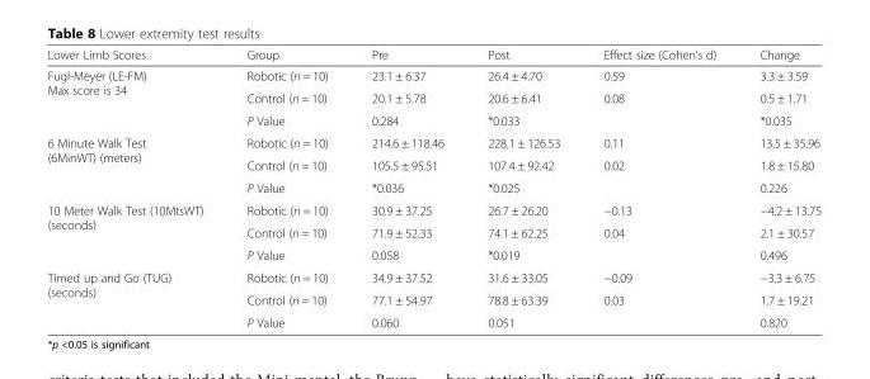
<table><thead><tr><td>Lower Limb Scores</td><td>Group</td><td>Pre</td><td>Post</td><td>Effect size (Cohen’s d)</td><td>Change</td></tr></thead><tbody><tr><td rowspan="3">Fugl-Meyer (LE-FM) Max score is 34</td><td>Robotic (n = 10)</td><td>23.1 ± 6.37</td><td>26.4 ± 4.70</td><td>0.59</td><td>3.3 ± 3.59</td></tr><tr><td>Control (n = 10)</td><td>20.1 ± 5.78</td><td>20.6 ± 6.41</td><td>0.08</td><td>0.5 ± 1.71</td></tr><tr><td>P Value</td><td>0.284</td><td>*0.033</td><td></td><td>*0.035</td></tr><tr><td rowspan="3">6 Minute Walk Test (6MinWT) (meters)</td><td>Robotic (n = 10)</td><td>214.6 ± 118.46</td><td>228.1 ± 126.53</td><td>0.11</td><td>13.5 ± 35.96</td></tr><tr><td>Control (n = 10)</td><td>105.5 ± 95.51</td><td>107.4 ± 92.42</td><td>0.02</td><td>1.8 ± 15.80</td></tr><tr><td>P Value</td><td>*0.036</td><td>*0.025</td><td></td><td>0.226</td></tr><tr><td rowspan="3">10 Meter Walk Test (10MtsWT) (seconds)</td><td>Robotic (n = 10)</td><td>30.9 ± 37.25</td><td>26.7 ± 26.20</td><td>−0.13</td><td>−4.2 ± 13.75</td></tr><tr><td>Control (n = 10)</td><td>71.9 ± 52.33</td><td>74.1 ± 62.25</td><td>0.04</td><td>2.1 ± 30.57</td></tr><tr><td>P Value</td><td>0.058</td><td>*0.019</td><td></td><td>0.496</td></tr><tr><td rowspan="3">Timed up and Go (TUG) (seconds)</td><td>Robotic (n = 10)</td><td>34.9 ± 37.52</td><td>31.6 ± 33.05</td><td>−0.09</td><td>−3.3 ± 6.75</td></tr><tr><td>Control (n = 10)</td><td>77.1 ± 54.97</td><td>78.8 ± 63.39</td><td>0.03</td><td>1.7 ± 19.21</td></tr><tr><td>P Value</td><td>0.060</td><td>0.051</td><td></td><td>0.820</td></tr></tbody></table>